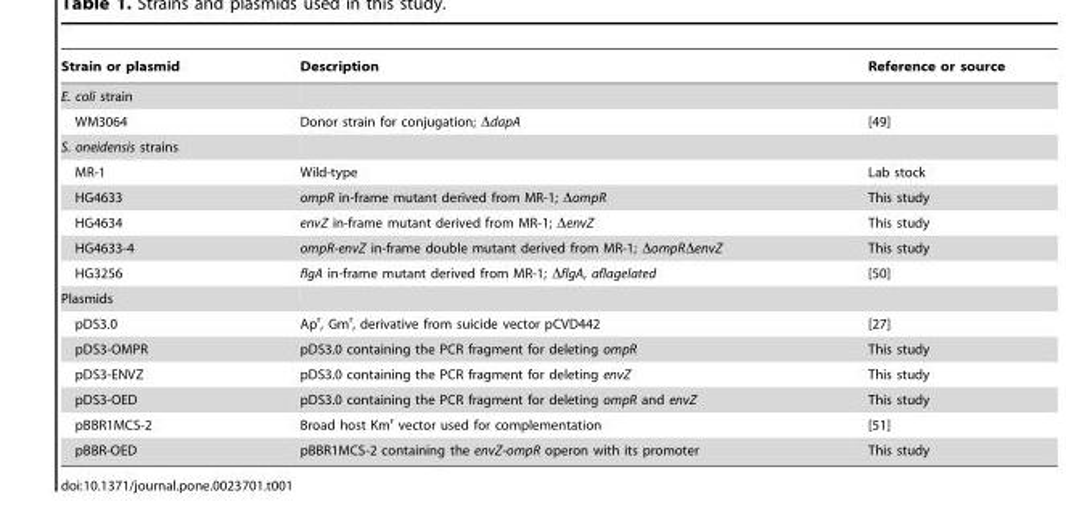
<table><thead><tr><td>Strain or plasmid</td><td>Description</td><td>Reference or source</td></tr></thead><tbody><tr><td colspan="3">E. coli strain</td></tr><tr><td>WM3064</td><td>Donor strain for conjugation; ΔdapA</td><td>[49]</td></tr><tr><td colspan="3">S. oneidensis strains</td></tr><tr><td>MR-1</td><td>Wild-type</td><td>Lab stock</td></tr><tr><td>HG4633</td><td>ompR in-frame mutant derived from MR-1; ΔompR</td><td>This study</td></tr><tr><td>HG4634</td><td>envZ in-frame mutant derived from MR-1; ΔenvZ</td><td>This study</td></tr><tr><td>HG4633-4</td><td>ompR-envZ in-frame double mutant derived from MR-1; ΔompRΔenvZ</td><td>This study</td></tr><tr><td>HG3256</td><td>flgA in-frame mutant derived from MR-1; ΔflgA, aflagelated</td><td>[50]</td></tr><tr><td colspan="3">Plasmids</td></tr><tr><td>pDS3.0</td><td>Ap<sup>r</sup>, Gm<sup>r</sup>, derivative from suicide vector pCVD442</td><td>[27]</td></tr><tr><td>pDS3-OMPR</td><td>pDS3.0 containing the PCR fragment for deleting ompR</td><td>This study</td></tr><tr><td>pDS3-ENVZ</td><td>pDS3.0 containing the PCR fragment for deleting envZ</td><td>This study</td></tr><tr><td>pDS3-OED</td><td>pDS3.0 containing the PCR fragment for deleting ompR and envZ</td><td>This study</td></tr><tr><td>pBBR1MCS-2</td><td>Broad host Km<sup>r</sup> vector used for complementation</td><td>[51]</td></tr><tr><td>pBBR-OED</td><td>pBBR1MCS-2 containing the envZ-ompR operon with its promoter</td><td>This study</td></tr></tbody></table>